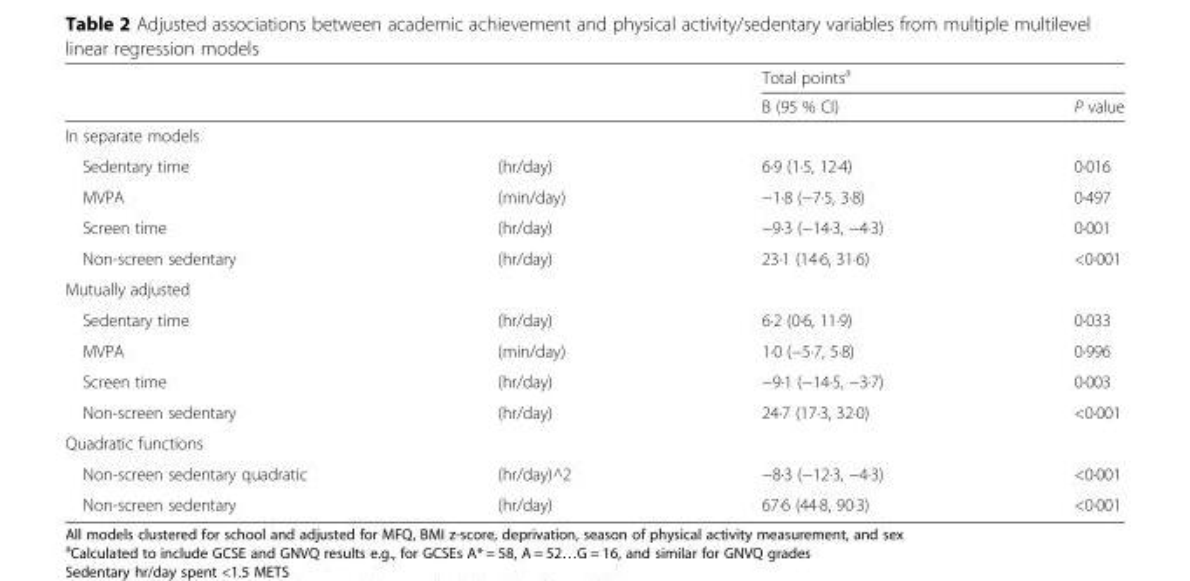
<table><thead><tr><td rowspan="2"></td><td rowspan="2"></td><td colspan="2">Total points<sup>a</sup></td></tr><tr><td>Β (95 % CI)</td><td>P value</td></tr></thead><tbody><tr><td colspan="4">In separate models</td></tr><tr><td>Sedentary time</td><td>(hr/day)</td><td>6·9 (1·5, 12·4)</td><td>0·016</td></tr><tr><td>MVPA</td><td>(min/day)</td><td>−1·8 (−7·5, 3·8)</td><td>0·497</td></tr><tr><td>Screen time</td><td>(hr/day)</td><td>−9·3 (−14·3, −4·3)</td><td>0·001</td></tr><tr><td>Non-screen sedentary</td><td>(hr/day)</td><td>23·1 (14·6, 31·6)</td><td>&lt;0·001</td></tr><tr><td colspan="4">Mutually adjusted</td></tr><tr><td>Sedentary time</td><td>(hr/day)</td><td>6·2 (0·6, 11·9)</td><td>0·033</td></tr><tr><td>MVPA</td><td>(min/day)</td><td>1·0 (−5·7, 5·8)</td><td>0·996</td></tr><tr><td>Screen time</td><td>(hr/day)</td><td>−9·1 (−14·5, −3·7)</td><td>0·003</td></tr><tr><td>Non-screen sedentary</td><td>(hr/day)</td><td>24·7 (17·3, 32·0)</td><td>&lt;0·001</td></tr><tr><td colspan="4">Quadratic functions</td></tr><tr><td>Non-screen sedentary quadratic</td><td>(hr/day)^2</td><td>−8·3 (−12·3, −4·3)</td><td>&lt;0·001</td></tr><tr><td>Non-screen sedentary</td><td>(hr/day)</td><td>67·6 (44·8, 90·3)</td><td>&lt;0·001</td></tr></tbody></table>